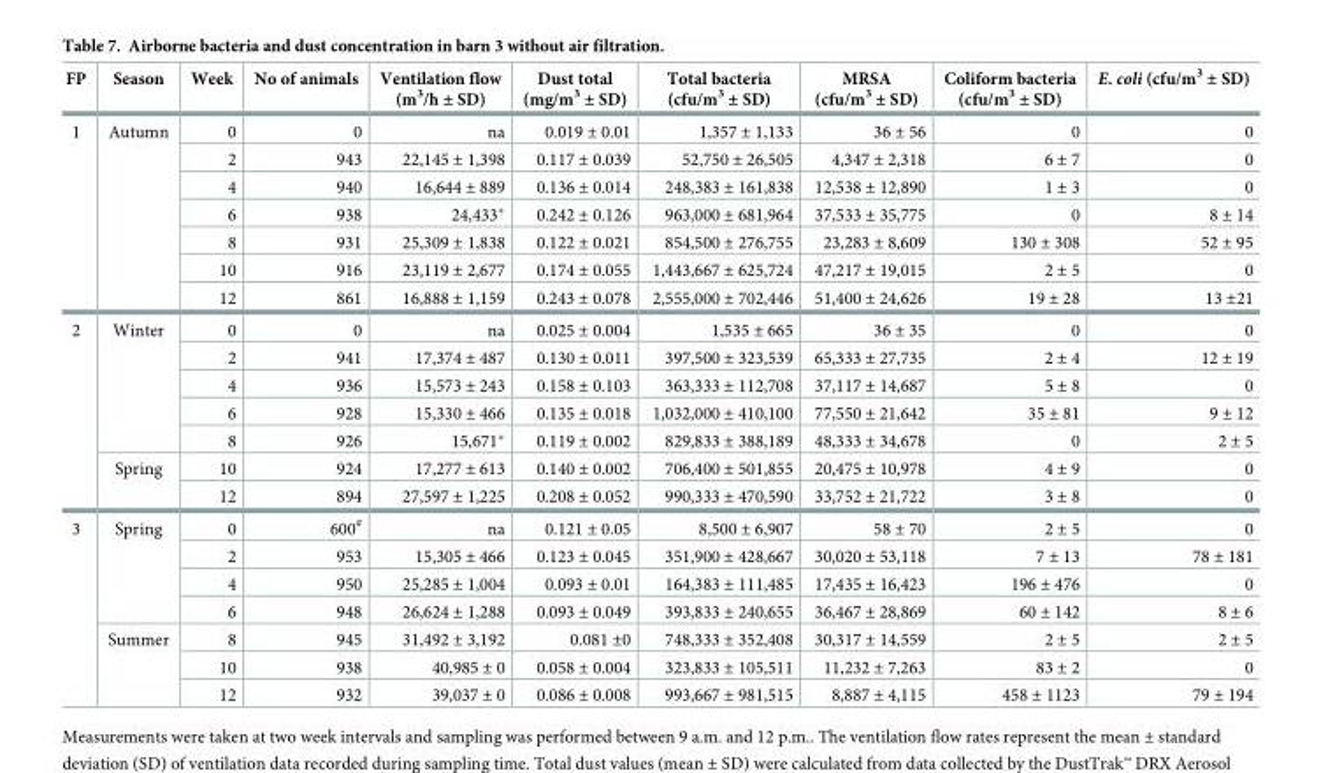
<table><thead><tr><td>FP</td><td>Season</td><td>Week</td><td>No of animals</td><td>Ventilation flow (m<sup>3</sup>/h ± SD)</td><td>Dust total (mg/m<sup>3</sup> ± SD)</td><td>Total bacteria (cfu/m<sup>3</sup> ± SD)</td><td>MRSA (cfu/m<sup>3</sup> ± SD)</td><td>Coliform bacteria (cfu/m<sup>3</sup> ± SD)</td><td>E. coli (cfu/m<sup>3</sup> ± SD)</td></tr></thead><tbody><tr><td rowspan="7">1</td><td rowspan="7">Autumn</td><td>0</td><td>0</td><td>na</td><td>0.019 ± 0.01</td><td>1,357 ± 1,133</td><td>36 ± 56</td><td>0</td><td>0</td></tr><tr><td>2</td><td>943</td><td>22,145 ± 1,398</td><td>0.117 ± 0.039</td><td>52,750 ± 26,505</td><td>4,347 ± 2,318</td><td>6 ± 7</td><td>0</td></tr><tr><td>4</td><td>940</td><td>16,644 ± 889</td><td>0.136 ± 0.014</td><td>248,383 ± 161,838</td><td>12,538 ± 12,890</td><td>1 ± 3</td><td>0</td></tr><tr><td>6</td><td>938</td><td>24,433*</td><td>0.242 ± 0.126</td><td>963,000 ± 681,964</td><td>37,533 ± 35,775</td><td>0</td><td>8 ± 14</td></tr><tr><td>8</td><td>931</td><td>25,309 ± 1,838</td><td>0.122 ± 0.021</td><td>854,500 ± 276,755</td><td>23,283 ± 8,609</td><td>130 ± 308</td><td>52 ± 95</td></tr><tr><td>10</td><td>916</td><td>23,119 ± 2,677</td><td>0.174 ± 0.055</td><td>1,443,667 ± 625,724</td><td>47,217 ± 19,015</td><td>2 ± 5</td><td>0</td></tr><tr><td>12</td><td>861</td><td>16,888 ± 1,159</td><td>0.243 ± 0.078</td><td>2,555,000 ± 702,446</td><td>51,400 ± 24,626</td><td>19 ± 28</td><td>13 ±21</td></tr><tr><td rowspan="7">2</td><td rowspan="5">Winter</td><td>0</td><td>0</td><td>na</td><td>0.025 ± 0.004</td><td>1,535 ± 665</td><td>36 ± 35</td><td>0</td><td>0</td></tr><tr><td>2</td><td>941</td><td>17,374 ± 487</td><td>0.130 ± 0.011</td><td>397,500 ± 323,539</td><td>65,333 ± 27,735</td><td>2 ± 4</td><td>12 ± 19</td></tr><tr><td>4</td><td>936</td><td>15,573 ± 243</td><td>0.158 ± 0.103</td><td>363,333 ± 112,708</td><td>37,117 ± 14,687</td><td>5 ± 8</td><td>0</td></tr><tr><td>6</td><td>928</td><td>15,330 ± 466</td><td>0.135 ± 0.018</td><td>1,032,000 ± 410,100</td><td>77,550 ± 21,642</td><td>35 ± 81</td><td>9 ± 12</td></tr><tr><td>8</td><td>926</td><td>15,671*</td><td>0.119 ± 0.002</td><td>829,833 ± 388,189</td><td>48,333 ± 34,678</td><td>0</td><td>2 ± 5</td></tr><tr><td rowspan="2">Spring</td><td>10</td><td>924</td><td>17,277 ± 613</td><td>0.140 ± 0.002</td><td>706,400 ± 501,855</td><td>20,475 ± 10,978</td><td>4 ± 9</td><td>0</td></tr><tr><td>12</td><td>894</td><td>27,597 ± 1,225</td><td>0.208 ± 0.052</td><td>990,333 ± 470,590</td><td>33,752 ± 21,722</td><td>3 ± 8</td><td>0</td></tr><tr><td rowspan="7">3</td><td rowspan="4">Spring</td><td>0</td><td>600<sup>#</sup></td><td>na</td><td>0.121 ± 0.05</td><td>8,500 ± 6,907</td><td>58 ± 70</td><td>2 ± 5</td><td>0</td></tr><tr><td>2</td><td>953</td><td>15,305 ± 466</td><td>0.123 ± 0.045</td><td>351,900 ± 428,667</td><td>30,020 ± 53,118</td><td>7 ± 13</td><td>78 ± 181</td></tr><tr><td>4</td><td>950</td><td>25,285 ± 1,004</td><td>0.093 ± 0.01</td><td>164,383 ± 111,485</td><td>17,435 ± 16,423</td><td>196 ± 476</td><td>0</td></tr><tr><td>6</td><td>948</td><td>26,624 ± 1,288</td><td>0.093 ± 0.049</td><td>393,833 ± 240,655</td><td>36,467 ± 28,869</td><td>60 ± 142</td><td>8 ± 6</td></tr><tr><td rowspan="3">Summer</td><td>8</td><td>945</td><td>31,492 ± 3,192</td><td>0.081 ±0</td><td>748,333 ± 352,408</td><td>30,317 ± 14,559</td><td>2 ± 5</td><td>2 ± 5</td></tr><tr><td>10</td><td>938</td><td>40,985 ± 0</td><td>0.058 ± 0.004</td><td>323,833 ± 105,511</td><td>11,232 ± 7,263</td><td>83 ± 2</td><td>0</td></tr><tr><td>12</td><td>932</td><td>39,037 ± 0</td><td>0.086 ± 0.008</td><td>993,667 ± 981,515</td><td>8,887 ± 4,115</td><td>458 ± 1123</td><td>79 ± 194</td></tr></tbody></table>